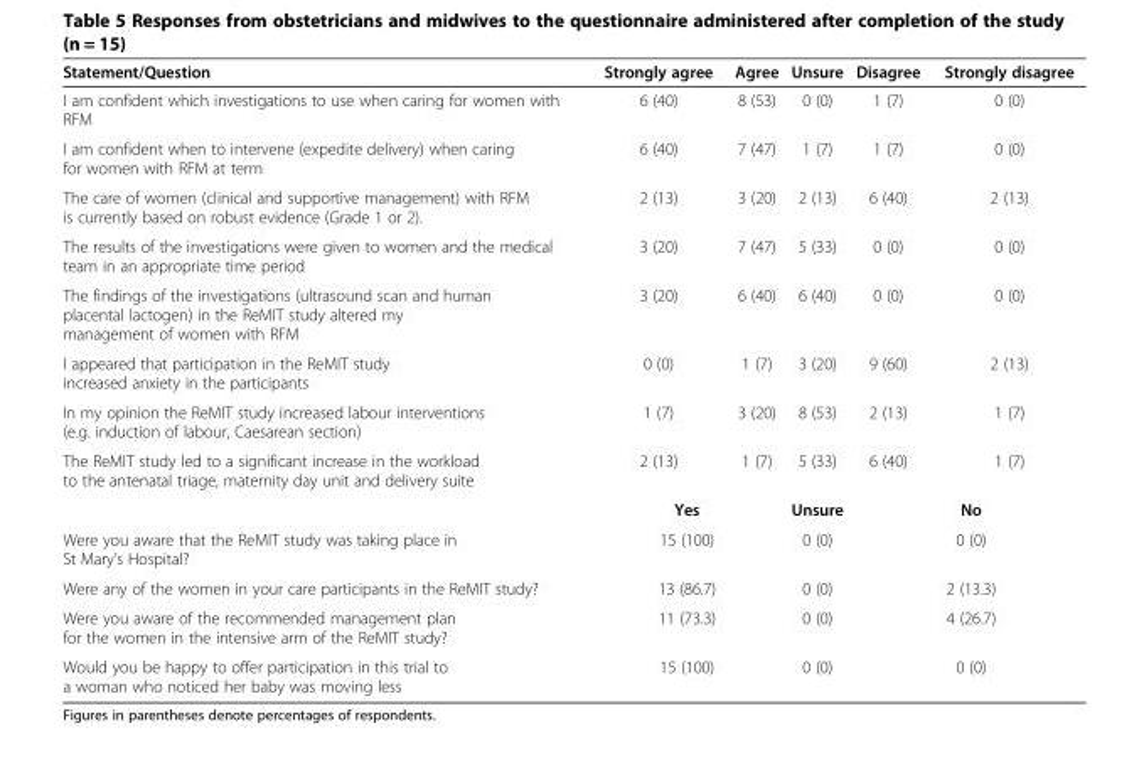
<table><thead><tr><td>Statement/Question</td><td>Strongly agree</td><td>Agree</td><td>Unsure</td><td>Disagree</td><td>Strongly disagree</td></tr></thead><tbody><tr><td>I am confident which investigations to use when caring for women with RFM</td><td>6 (40)</td><td>8 (53)</td><td>0 (0)</td><td>1 (7)</td><td>0 (0)</td></tr><tr><td>I am confident when to intervene (expedite delivery) when caring for women with RFM at term</td><td>6 (40)</td><td>7 (47)</td><td>1 (7)</td><td>1 (7)</td><td>0 (0)</td></tr><tr><td>The care of women (clinical and supportive management) with RFM is currently based on robust evidence (Grade 1 or 2).</td><td>2 (13)</td><td>3 (20)</td><td>2 (13)</td><td>6 (40)</td><td>2 (13)</td></tr><tr><td>The results of the investigations were given to women and the medical team in an appropriate time period</td><td>3 (20)</td><td>7 (47)</td><td>5 (33)</td><td>0 (0)</td><td>0 (0)</td></tr><tr><td>The findings of the investigations (ultrasound scan and human placental lactogen) in the ReMIT study altered my management of women with RFM</td><td>3 (20)</td><td>6 (40)</td><td>6 (40)</td><td>0 (0)</td><td>0 (0)</td></tr><tr><td>I appeared that participation in the ReMIT study increased anxiety in the participants</td><td>0 (0)</td><td>1 (7)</td><td>3 (20)</td><td>9 (60)</td><td>2 (13)</td></tr><tr><td>In my opinion the ReMIT study increased labour interventions (e.g. induction of labour, Caesarean section)</td><td>1 (7)</td><td>3 (20)</td><td>8 (53)</td><td>2 (13)</td><td>1 (7)</td></tr><tr><td rowspan="2">The ReMIT study led to a significant increase in the workload to the antenatal triage, maternity day unit and delivery suite</td><td>2 (13)</td><td>1 (7)</td><td>5 (33)</td><td>6 (40)</td><td>1 (7)</td></tr><tr><td colspan="2">Yes</td><td>Unsure</td><td colspan="2">No</td></tr><tr><td>Were you aware that the ReMIT study was taking place in St Mary’s Hospital?</td><td colspan="2">15 (100)</td><td>0 (0)</td><td colspan="2">0 (0)</td></tr><tr><td>Were any of the women in your care participants in the ReMIT study?</td><td colspan="2">13 (86.7)</td><td>0 (0)</td><td colspan="2">2 (13.3)</td></tr><tr><td>Were you aware of the recommended management plan for the women in the intensive arm of the ReMIT study?</td><td colspan="2">11 (73.3)</td><td>0 (0)</td><td colspan="2">4 (26.7)</td></tr><tr><td>Would you be happy to offer participation in this trial to a woman who noticed her baby was moving less</td><td colspan="2">15 (100)</td><td>0 (0)</td><td colspan="2">0 (0)</td></tr></tbody></table>